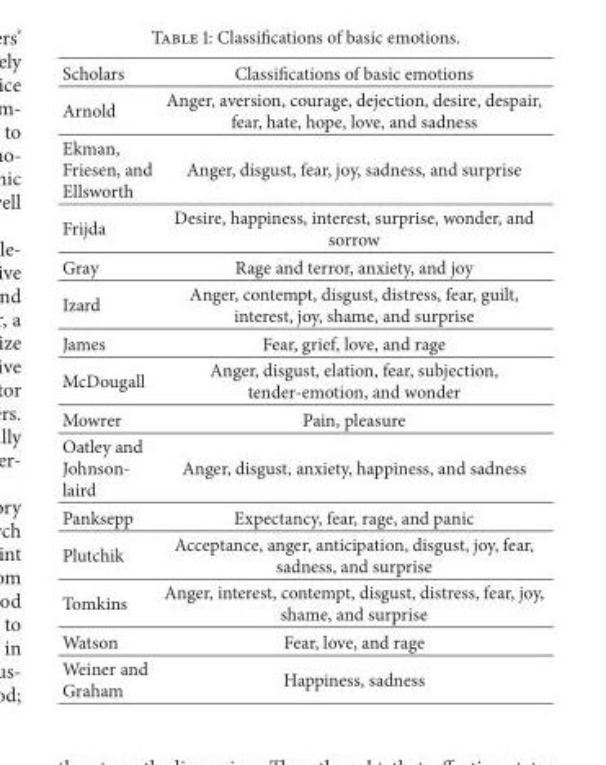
<table><thead><tr><td>Scholars</td><td>Classifications of basic emotions</td></tr></thead><tbody><tr><td>Arnold</td><td>Anger, aversion, courage, dejection, desire, despair, fear, hate, hope, love, and sadness</td></tr><tr><td>Ekman, Friesen, and Ellsworth</td><td>Anger, disgust, fear, joy, sadness, and surprise</td></tr><tr><td>Frijda</td><td>Desire, happiness, interest, surprise, wonder, and sorrow</td></tr><tr><td>Gray</td><td>Rage and terror, anxiety, and joy</td></tr><tr><td>Izard</td><td>Anger, contempt, disgust, distress, fear, guilt, interest, joy, shame, and surprise</td></tr><tr><td>James</td><td>Fear, grief, love, and rage</td></tr><tr><td>McDougall</td><td>Anger, disgust, elation, fear, subjection, tender-emotion, and wonder</td></tr><tr><td>Mowrer</td><td>Pain, pleasure</td></tr><tr><td>Oatley and Johnson- laird</td><td>Anger, disgust, anxiety, happiness, and sadness</td></tr><tr><td>Panksepp</td><td>Expectancy, fear, rage, and panic</td></tr><tr><td>Plutchik</td><td>Acceptance, anger, anticipation, disgust, joy, fear, sadness, and surprise</td></tr><tr><td>Tomkins</td><td>Anger, interest, contempt, disgust, distress, fear, joy, shame, and surprise</td></tr><tr><td>Watson</td><td>Fear, love, and rage</td></tr><tr><td>Weiner and Graham</td><td>Happiness, sadness</td></tr></tbody></table>